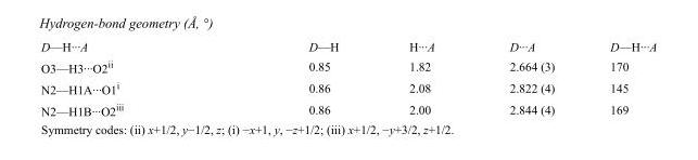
<table><tbody><tr><td>D—H···A</td><td>D—H</td><td>H···A</td><td>D···A</td><td>D—H···A</td></tr><tr><td>O3—H3···O2<sup>ii</sup></td><td>0.85</td><td>1.82</td><td>2.664 (3)</td><td>170</td></tr><tr><td>N2—H1A···O1<sup>i</sup></td><td>0.86</td><td>2.08</td><td>2.822 (4)</td><td>145</td></tr><tr><td>N2—H1B···O2<sup>iii</sup></td><td>0.86</td><td>2.00</td><td>2.844 (4)</td><td>169</td></tr></tbody></table>